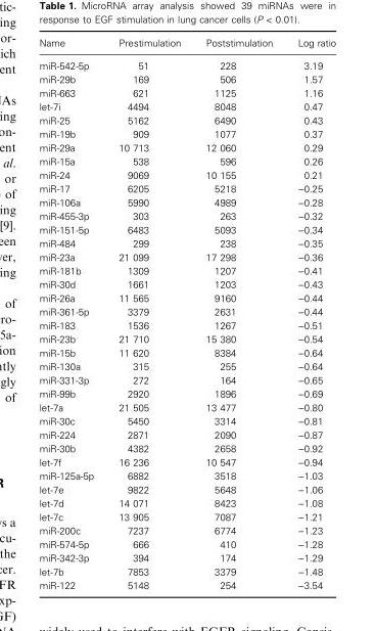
<table><thead><tr><td>Name</td><td>Prestimulation</td><td>Poststimulation</td><td>Log ratio</td></tr></thead><tbody><tr><td>miR-542-5p</td><td>51</td><td>228</td><td>3.19</td></tr><tr><td>miR-29b</td><td>169</td><td>506</td><td>1.57</td></tr><tr><td>miR-663</td><td>621</td><td>1125</td><td>1.16</td></tr><tr><td>let-7i</td><td>4494</td><td>8048</td><td>0.47</td></tr><tr><td>miR-25</td><td>5162</td><td>6490</td><td>0.43</td></tr><tr><td>miR-19b</td><td>909</td><td>1077</td><td>0.37</td></tr><tr><td>miR-29a</td><td>10 713</td><td>12 060</td><td>0.29</td></tr><tr><td>miR-15a</td><td>538</td><td>596</td><td>0.26</td></tr><tr><td>miR-24</td><td>9069</td><td>10 155</td><td>0.21</td></tr><tr><td>miR-17</td><td>6205</td><td>5218</td><td>−0.25</td></tr><tr><td>miR-106a</td><td>5990</td><td>4989</td><td>−0.28</td></tr><tr><td>miR-455-3p</td><td>303</td><td>263</td><td>−0.32</td></tr><tr><td>miR-151-5p</td><td>6483</td><td>5093</td><td>−0.34</td></tr><tr><td>miR-484</td><td>299</td><td>238</td><td>−0.35</td></tr><tr><td>miR-23a</td><td>21 099</td><td>17 298</td><td>−0.36</td></tr><tr><td>miR-181b</td><td>1309</td><td>1207</td><td>−0.41</td></tr><tr><td>miR-30d</td><td>1661</td><td>1203</td><td>−0.43</td></tr><tr><td>miR-26a</td><td>11 565</td><td>9160</td><td>−0.44</td></tr><tr><td>miR-361-5p</td><td>3379</td><td>2631</td><td>−0.44</td></tr><tr><td>miR-183</td><td>1536</td><td>1267</td><td>−0.51</td></tr><tr><td>miR-23b</td><td>21 710</td><td>15 380</td><td>−0.54</td></tr><tr><td>miR-15b</td><td>11 620</td><td>8384</td><td>−0.64</td></tr><tr><td>miR-130a</td><td>315</td><td>255</td><td>−0.64</td></tr><tr><td>miR-331-3p</td><td>272</td><td>164</td><td>−0.65</td></tr><tr><td>miR-99b</td><td>2920</td><td>1896</td><td>−0.69</td></tr><tr><td>let-7a</td><td>21 505</td><td>13 477</td><td>−0.80</td></tr><tr><td>miR-30c</td><td>5450</td><td>3314</td><td>−0.81</td></tr><tr><td>miR-224</td><td>2871</td><td>2090</td><td>−0.87</td></tr><tr><td>miR-30b</td><td>4382</td><td>2658</td><td>−0.92</td></tr><tr><td>let-7f</td><td>16 236</td><td>10 547</td><td>−0.94</td></tr><tr><td>miR-125a-5p</td><td>6882</td><td>3518</td><td>−1.03</td></tr><tr><td>let-7e</td><td>9822</td><td>5648</td><td>−1.06</td></tr><tr><td>let-7d</td><td>14 071</td><td>8423</td><td>−1.08</td></tr><tr><td>let-7c</td><td>13 905</td><td>7087</td><td>−1.21</td></tr><tr><td>miR-200c</td><td>7237</td><td>6774</td><td>−1.23</td></tr><tr><td>miR-574-5p</td><td>666</td><td>410</td><td>−1.28</td></tr><tr><td>miR-342-3p</td><td>394</td><td>174</td><td>−1.29</td></tr><tr><td>let-7b</td><td>7853</td><td>3379</td><td>−1.48</td></tr><tr><td>miR-122</td><td>5148</td><td>254</td><td>−3.54</td></tr></tbody></table>